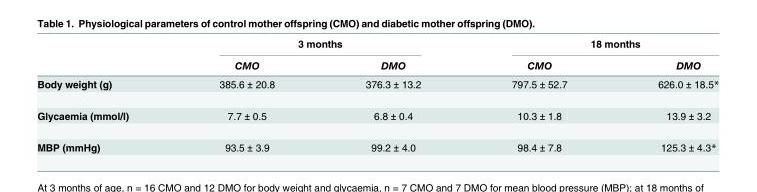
<table><thead><tr><td rowspan="2"></td><td colspan="2">3 months</td><td colspan="2">18 months</td></tr><tr><td>CMO</td><td>DMO</td><td>CMO</td><td>DMO</td></tr></thead><tbody><tr><td>Body weight (g)</td><td>385.6 ± 20.8</td><td>376.3 ± 13.2</td><td>797.5 ± 52.7</td><td>626.0 ± 18.5*</td></tr><tr><td>Glycaemia (mmol/l)</td><td>7.7 ± 0.5</td><td>6.8 ± 0.4</td><td>10.3 ± 1.8</td><td>13.9 ± 3.2</td></tr><tr><td>MBP (mmHg)</td><td>93.5 ± 3.9</td><td>99.2 ± 4.0</td><td>98.4 ± 7.8</td><td>125.3 ± 4.3*</td></tr></tbody></table>